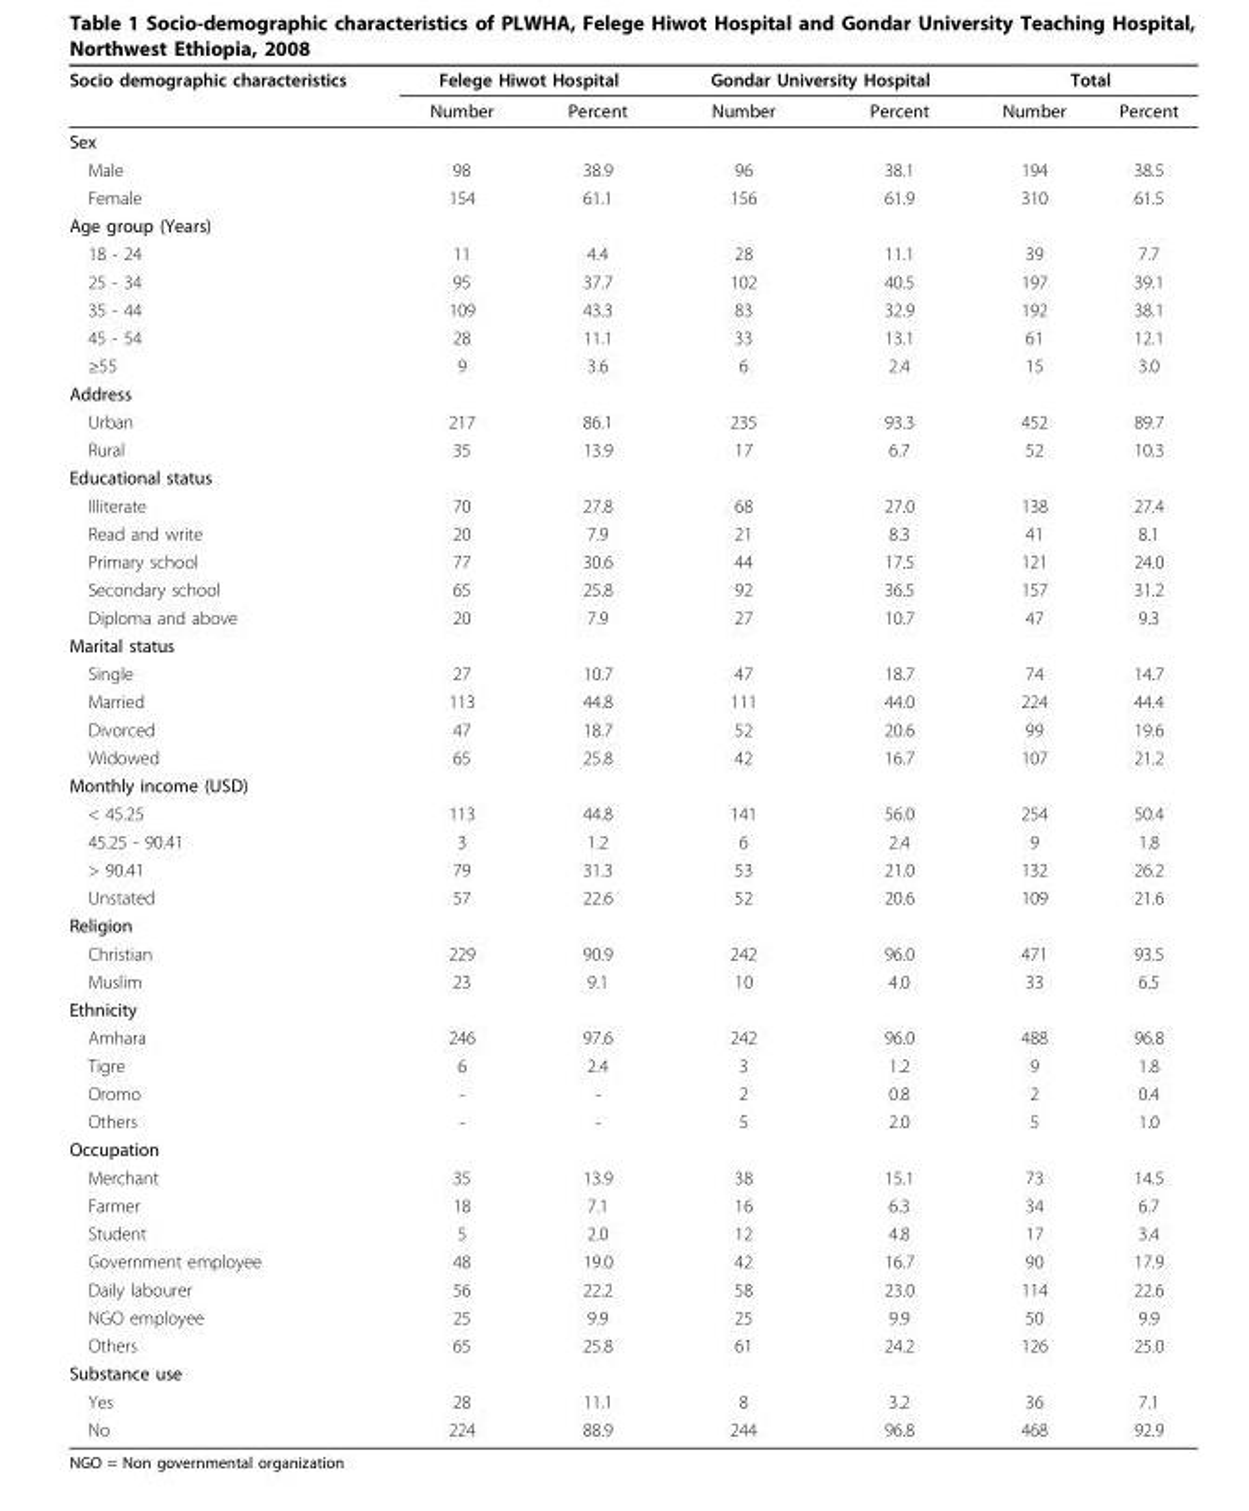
<table><thead><tr><td rowspan="2">Socio demographic characteristics</td><td colspan="2">Felege Hiwot Hospital</td><td colspan="2">Gondar University Hospital</td><td colspan="2">Total</td></tr><tr><td>Number</td><td>Percent</td><td>Number</td><td>Percent</td><td>Number</td><td>Percent</td></tr></thead><tbody><tr><td colspan="7">Sex</td></tr><tr><td>Male</td><td>98</td><td>38.9</td><td>96</td><td>38.1</td><td>194</td><td>38.5</td></tr><tr><td>Female</td><td>154</td><td>61.1</td><td>156</td><td>61.9</td><td>310</td><td>61.5</td></tr><tr><td colspan="7">Age group (Years)</td></tr><tr><td>18 - 24</td><td>11</td><td>4.4</td><td>28</td><td>11.1</td><td>39</td><td>7.7</td></tr><tr><td>25 - 34</td><td>95</td><td>37.7</td><td>102</td><td>40.5</td><td>197</td><td>39.1</td></tr><tr><td>35 - 44</td><td>109</td><td>43.3</td><td>83</td><td>32.9</td><td>192</td><td>38.1</td></tr><tr><td>45 - 54</td><td>28</td><td>11.1</td><td>33</td><td>13.1</td><td>61</td><td>12.1</td></tr><tr><td>≥55</td><td>9</td><td>3.6</td><td>6</td><td>2.4</td><td>15</td><td>3.0</td></tr><tr><td colspan="7">Address</td></tr><tr><td>Urban</td><td>217</td><td>86.1</td><td>235</td><td>93.3</td><td>452</td><td>89.7</td></tr><tr><td>Rural</td><td>35</td><td>13.9</td><td>17</td><td>6.7</td><td>52</td><td>10.3</td></tr><tr><td colspan="7">Educational status</td></tr><tr><td>Illiterate</td><td>70</td><td>27.8</td><td>68</td><td>27.0</td><td>138</td><td>27.4</td></tr><tr><td>Read and write</td><td>20</td><td>7.9</td><td>21</td><td>8.3</td><td>41</td><td>8.1</td></tr><tr><td>Primary school</td><td>77</td><td>30.6</td><td>44</td><td>17.5</td><td>121</td><td>24.0</td></tr><tr><td>Secondary school</td><td>65</td><td>25.8</td><td>92</td><td>36.5</td><td>157</td><td>31.2</td></tr><tr><td>Diploma and above</td><td>20</td><td>7.9</td><td>27</td><td>10.7</td><td>47</td><td>9.3</td></tr><tr><td colspan="7">Marital status</td></tr><tr><td>Single</td><td>27</td><td>10.7</td><td>47</td><td>18.7</td><td>74</td><td>14.7</td></tr><tr><td>Married</td><td>113</td><td>44.8</td><td>111</td><td>44.0</td><td>224</td><td>44.4</td></tr><tr><td>Divorced</td><td>47</td><td>18.7</td><td>52</td><td>20.6</td><td>99</td><td>19.6</td></tr><tr><td>Widowed</td><td>65</td><td>25.8</td><td>42</td><td>16.7</td><td>107</td><td>21.2</td></tr><tr><td colspan="7">Monthly income (USD)</td></tr><tr><td>&lt; 45.25</td><td>113</td><td>44.8</td><td>141</td><td>56.0</td><td>254</td><td>50.4</td></tr><tr><td>45.25 - 90.41</td><td>3</td><td>1.2</td><td>6</td><td>2.4</td><td>9</td><td>1.8</td></tr><tr><td>&gt; 90.41</td><td>79</td><td>31.3</td><td>53</td><td>21.0</td><td>132</td><td>26.2</td></tr><tr><td>Unstated</td><td>57</td><td>22.6</td><td>52</td><td>20.6</td><td>109</td><td>21.6</td></tr><tr><td colspan="7">Religion</td></tr><tr><td>Christian</td><td>229</td><td>90.9</td><td>242</td><td>96.0</td><td>471</td><td>93.5</td></tr><tr><td>Muslim</td><td>23</td><td>9.1</td><td>10</td><td>4.0</td><td>33</td><td>6.5</td></tr><tr><td colspan="7">Ethnicity</td></tr><tr><td>Amhara</td><td>246</td><td>97.6</td><td>242</td><td>96.0</td><td>488</td><td>96.8</td></tr><tr><td>Tigre</td><td>6</td><td>2.4</td><td>3</td><td>1.2</td><td>9</td><td>1.8</td></tr><tr><td>Oromo</td><td>-</td><td>-</td><td>2</td><td>0.8</td><td>2</td><td>0.4</td></tr><tr><td>Others</td><td>-</td><td>-</td><td>5</td><td>2.0</td><td>5</td><td>1.0</td></tr><tr><td colspan="7">Occupation</td></tr><tr><td>Merchant</td><td>35</td><td>13.9</td><td>38</td><td>15.1</td><td>73</td><td>14.5</td></tr><tr><td>Farmer</td><td>18</td><td>7.1</td><td>16</td><td>6.3</td><td>34</td><td>6.7</td></tr><tr><td>Student</td><td>5</td><td>2.0</td><td>12</td><td>4.8</td><td>17</td><td>3.4</td></tr><tr><td>Government employee</td><td>48</td><td>19.0</td><td>42</td><td>16.7</td><td>90</td><td>17.9</td></tr><tr><td>Daily labourer</td><td>56</td><td>22.2</td><td>58</td><td>23.0</td><td>114</td><td>22.6</td></tr><tr><td>NGO employee</td><td>25</td><td>9.9</td><td>25</td><td>9.9</td><td>50</td><td>9.9</td></tr><tr><td>Others</td><td>65</td><td>25.8</td><td>61</td><td>24.2</td><td>126</td><td>25.0</td></tr><tr><td colspan="7">Substance use</td></tr><tr><td>Yes</td><td>28</td><td>11.1</td><td>8</td><td>3.2</td><td>36</td><td>7.1</td></tr><tr><td>No</td><td>224</td><td>88.9</td><td>244</td><td>96.8</td><td>468</td><td>92.9</td></tr></tbody></table>